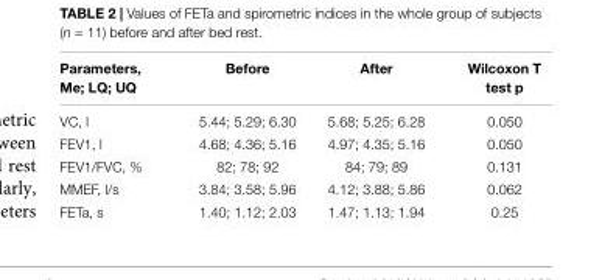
<table><thead><tr><td>Parameters, Me; LQ; UQ</td><td>Before</td><td>After</td><td>Wilcoxon T test p</td></tr></thead><tbody><tr><td>VC, l</td><td>5.44; 5.29; 6.30</td><td>5.68; 5.25; 6.28</td><td>0.050</td></tr><tr><td>FEV1, l</td><td>4.68; 4.36; 5.16</td><td>4.97; 4.35; 5.16</td><td>0.050</td></tr><tr><td>FEV1/FVC, %</td><td>82; 78; 92</td><td>84; 79; 89</td><td>0.131</td></tr><tr><td>MMEF, l/s</td><td>3.84; 3.58; 5.96</td><td>4.12; 3.88; 5.86</td><td>0.062</td></tr><tr><td>FETa, s</td><td>1.40; 1.12; 2.03</td><td>1.47; 1.13; 1.94</td><td>0.25</td></tr></tbody></table>